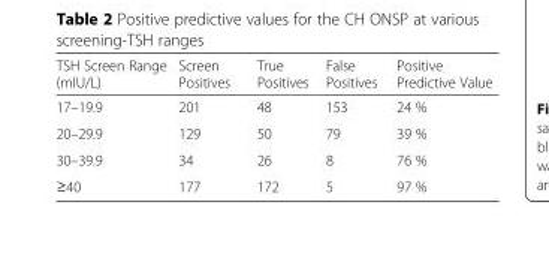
<table><thead><tr><td>TSH Screen Range (mIU/L)</td><td>Screen Positives</td><td>True Positives</td><td>False Positives</td><td>Positive Predictive Value</td></tr></thead><tbody><tr><td>17–19.9</td><td>201</td><td>48</td><td>153</td><td>24 %</td></tr><tr><td>20–29.9</td><td>129</td><td>50</td><td>79</td><td>39 %</td></tr><tr><td>30–39.9</td><td>34</td><td>26</td><td>8</td><td>76 %</td></tr><tr><td>≥40</td><td>177</td><td>172</td><td>5</td><td>97 %</td></tr></tbody></table>